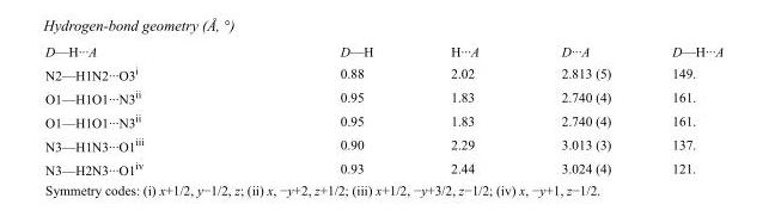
<table><tbody><tr><td>D—H···A</td><td>D—H</td><td>H···A</td><td>D···A</td><td>D—H···A</td></tr><tr><td>N2—H1N2···O3<sup>i</sup></td><td>0.88</td><td>2.02</td><td>2.813 (5)</td><td>149.</td></tr><tr><td>O1—H1O1···N3<sup>ii</sup></td><td>0.95</td><td>1.83</td><td>2.740 (4)</td><td>161.</td></tr><tr><td>O1—H1O1···N3<sup>ii</sup></td><td>0.95</td><td>1.83</td><td>2.740 (4)</td><td>161.</td></tr><tr><td>N3—H1N3···O1<sup>iii</sup></td><td>0.90</td><td>2.29</td><td>3.013 (3)</td><td>137.</td></tr><tr><td>N3—H2N3···O1<sup>iv</sup></td><td>0.93</td><td>2.44</td><td>3.024 (4)</td><td>121.</td></tr></tbody></table>